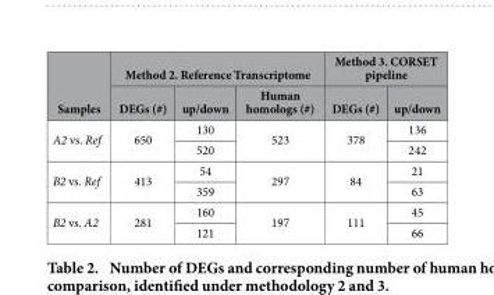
<table><thead><tr><td rowspan="2">Samples</td><td colspan="3">Method 2. Reference Transcriptome</td><td colspan="2">Method 3. CORSET pipeline</td></tr><tr><td>DEGs (#)</td><td>up/down</td><td>Human homologs (#)</td><td>DEGs (#)</td><td>up/down</td></tr></thead><tbody><tr><td rowspan="2">A2 vs. Ref</td><td rowspan="2">650</td><td>130</td><td rowspan="2">523</td><td rowspan="2">378</td><td>136</td></tr><tr><td>520</td><td>242</td></tr><tr><td rowspan="2">B2 vs. Ref</td><td rowspan="2">413</td><td>54</td><td rowspan="2">297</td><td rowspan="2">84</td><td>21</td></tr><tr><td>359</td><td>63</td></tr><tr><td rowspan="2">B2 vs. A2</td><td rowspan="2">281</td><td>160</td><td rowspan="2">197</td><td rowspan="2">111</td><td>45</td></tr><tr><td>121</td><td>66</td></tr></tbody></table>